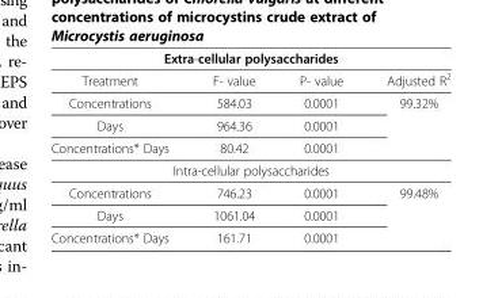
<table><thead><tr><td colspan="4">Extra-cellular polysaccharides</td></tr><tr><td>Treatment</td><td>F- value</td><td>P- value</td><td>Adjusted R<sup>2</sup></td></tr></thead><tbody><tr><td>Concentrations</td><td>584.03</td><td>0.0001</td><td rowspan="3">99.32%</td></tr><tr><td>Days</td><td>964.36</td><td>0.0001</td></tr><tr><td>Concentrations* Days</td><td>80.42</td><td>0.0001</td></tr><tr><td colspan="4">Intra-cellular polysaccharides</td></tr><tr><td>Concentrations</td><td>746.23</td><td>0.0001</td><td rowspan="3">99.48%</td></tr><tr><td>Days</td><td>1061.04</td><td>0.0001</td></tr><tr><td>Concentrations* Days</td><td>161.71</td><td>0.0001</td></tr></tbody></table>